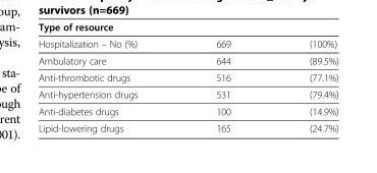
<table><tbody><tr><td>Hospitalization – No (%)</td><td>669</td><td>(100%)</td></tr><tr><td>Ambulatory care</td><td>644</td><td>(89.5%)</td></tr><tr><td>Anti-thrombotic drugs</td><td>516</td><td>(77.1%)</td></tr><tr><td>Anti-hypertension drugs</td><td>531</td><td>(79.4%)</td></tr><tr><td>Anti-diabetes drugs</td><td>100</td><td>(14.9%)</td></tr><tr><td>Lipid-lowering drugs</td><td>165</td><td>(24.7%)</td></tr></tbody></table>